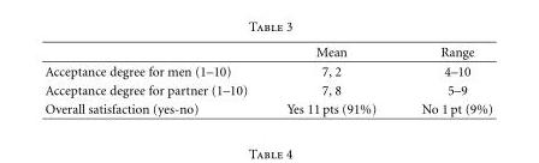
<table><thead><tr><td></td><td>Mean</td><td>Range</td></tr></thead><tbody><tr><td>Acceptance degree for men (1–10)</td><td>7, 2</td><td>4–10</td></tr><tr><td>Acceptance degree for partner (1–10)</td><td>7, 8</td><td>5–9</td></tr><tr><td>Overall satisfaction (yes-no)</td><td>Yes 11 pts (91%)</td><td>No 1 pt (9%)</td></tr></tbody></table>